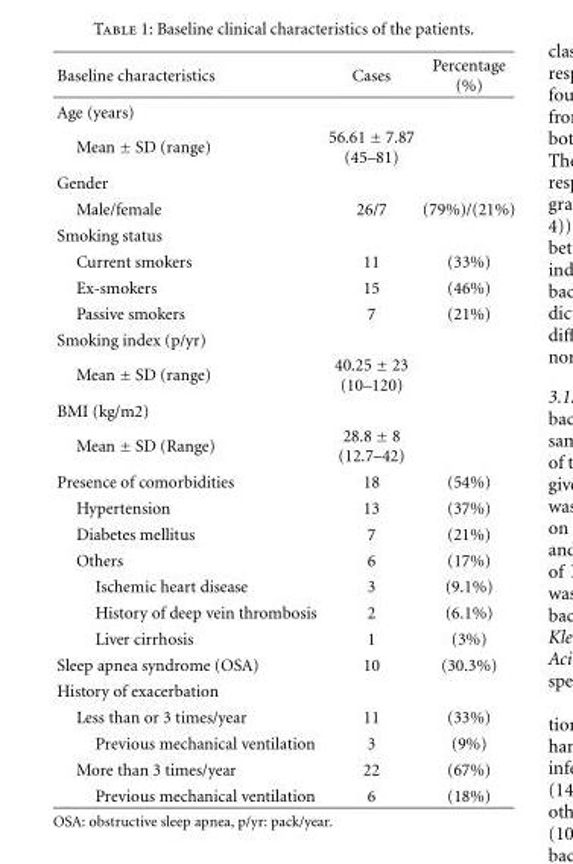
<table><thead><tr><td>Baseline characteristics</td><td>Cases</td><td>Percentage (%)</td></tr></thead><tbody><tr><td colspan="3">Age (years)</td></tr><tr><td>Mean ± SD (range)</td><td>56.61 ± 7.87 (45–81)</td><td></td></tr><tr><td colspan="3">Gender</td></tr><tr><td>Male/female</td><td>26/7</td><td>(79%)/(21%)</td></tr><tr><td colspan="3">Smoking status</td></tr><tr><td>Current smokers</td><td>11</td><td>(33%)</td></tr><tr><td>Ex-smokers</td><td>15</td><td>(46%)</td></tr><tr><td>Passive smokers</td><td>7</td><td>(21%)</td></tr><tr><td colspan="3">Smoking index (p/yr)</td></tr><tr><td>Mean ± SD (range)</td><td>40.25 ± 23 (10–120)</td><td></td></tr><tr><td colspan="3">BMI (kg/m2)</td></tr><tr><td>Mean ± SD (Range)</td><td>28.8 ± 8 (12.7–42)</td><td></td></tr><tr><td>Presence of comorbidities</td><td>18</td><td>(54%)</td></tr><tr><td>Hypertension</td><td>13</td><td>(37%)</td></tr><tr><td>Diabetes mellitus</td><td>7</td><td>(21%)</td></tr><tr><td>Others</td><td>6</td><td>(17%)</td></tr><tr><td>Ischemic heart disease</td><td>3</td><td>(9.1%)</td></tr><tr><td>History of deep vein thrombosis</td><td>2</td><td>(6.1%)</td></tr><tr><td>Liver cirrhosis</td><td>1</td><td>(3%)</td></tr><tr><td>Sleep apnea syndrome (OSA)</td><td>10</td><td>(30.3%)</td></tr><tr><td colspan="3">History of exacerbation</td></tr><tr><td>Less than or 3 times/year</td><td>11</td><td>(33%)</td></tr><tr><td>Previous mechanical ventilation</td><td>3</td><td>(9%)</td></tr><tr><td>More than 3 times/year</td><td>22</td><td>(67%)</td></tr><tr><td>Previous mechanical ventilation</td><td>6</td><td>(18%)</td></tr></tbody></table>